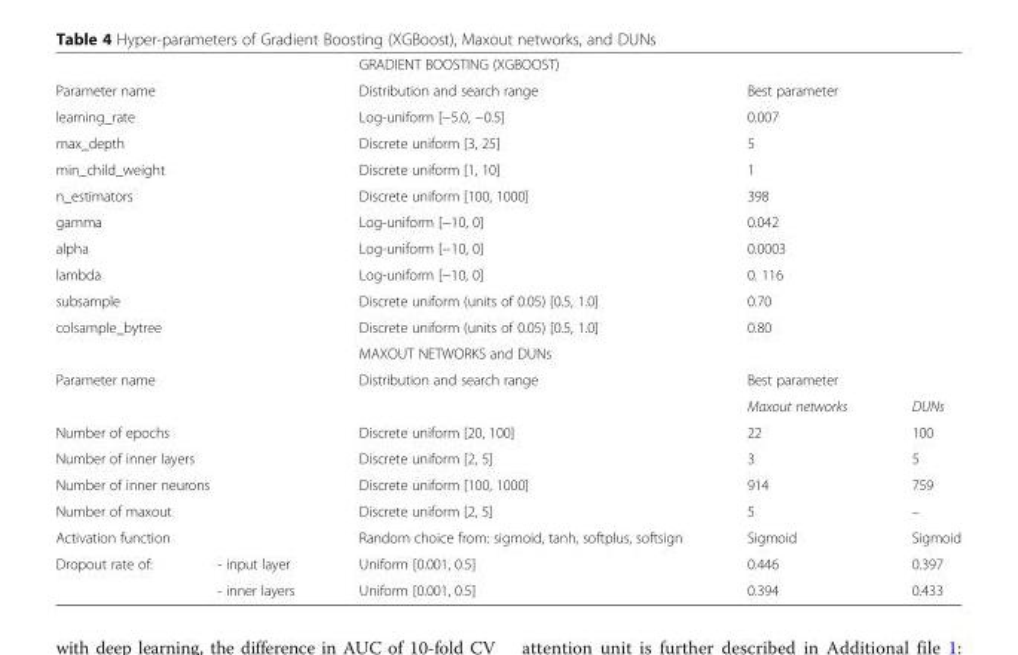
<table><thead><tr><td></td><td></td><td>GRADIENT BOOSTING (XGBOOST)</td><td></td><td></td></tr></thead><tbody><tr><td colspan="2">Parameter name</td><td>Distribution and search range</td><td colspan="2">Best parameter</td></tr><tr><td colspan="2">learning_rate</td><td>Log-uniform [−5.0, −0.5]</td><td colspan="2">0.007</td></tr><tr><td colspan="2">max_depth</td><td>Discrete uniform [3, 25]</td><td colspan="2">5</td></tr><tr><td colspan="2">min_child_weight</td><td>Discrete uniform [1, 10]</td><td colspan="2">1</td></tr><tr><td colspan="2">n_estimators</td><td>Discrete uniform [100, 1000]</td><td colspan="2">398</td></tr><tr><td colspan="2">gamma</td><td>Log-uniform [−10, 0]</td><td colspan="2">0.042</td></tr><tr><td colspan="2">alpha</td><td>Log-uniform [−10, 0]</td><td colspan="2">0.0003</td></tr><tr><td colspan="2">lambda</td><td>Log-uniform [−10, 0]</td><td colspan="2">0. 116</td></tr><tr><td colspan="2">subsample</td><td>Discrete uniform (units of 0.05) [0.5, 1.0]</td><td colspan="2">0.70</td></tr><tr><td rowspan="2" colspan="2">colsample_bytree</td><td>Discrete uniform (units of 0.05) [0.5, 1.0]</td><td colspan="2">0.80</td></tr><tr><td>MAXOUT NETWORKS and DUNs</td><td colspan="2"></td></tr><tr><td rowspan="2" colspan="2">Parameter name</td><td rowspan="2">Distribution and search range</td><td colspan="2">Best parameter</td></tr><tr><td>Maxout networks</td><td>DUNs</td></tr><tr><td colspan="2">Number of epochs</td><td>Discrete uniform [20, 100]</td><td>22</td><td>100</td></tr><tr><td colspan="2">Number of inner layers</td><td>Discrete uniform [2, 5]</td><td>3</td><td>5</td></tr><tr><td colspan="2">Number of inner neurons</td><td>Discrete uniform [100, 1000]</td><td>914</td><td>759</td></tr><tr><td colspan="2">Number of maxout</td><td>Discrete uniform [2, 5]</td><td>5</td><td>–</td></tr><tr><td colspan="2">Activation function</td><td>Random choice from: sigmoid, tanh, softplus, softsign</td><td>Sigmoid</td><td>Sigmoid</td></tr><tr><td rowspan="2">Dropout rate of:</td><td>- input layer</td><td>Uniform [0.001, 0.5]</td><td>0.446</td><td>0.397</td></tr><tr><td>- inner layers</td><td>Uniform [0.001, 0.5]</td><td>0.394</td><td>0.433</td></tr></tbody></table>